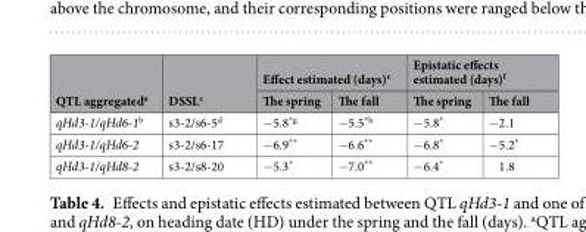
<table><thead><tr><td rowspan="2">QTL aggregated<sup>a</sup></td><td rowspan="2">DSSL<sup>c</sup></td><td colspan="2">Effect estimated (days)<sup>e</sup></td><td colspan="2">Epistatic effects estimated (days)<sup>f</sup></td></tr><tr><td>The spring</td><td>The fall</td><td>The spring</td><td>The fall</td></tr></thead><tbody><tr><td>qHd3-1/qHd6-1<sup>b</sup></td><td>s3-2/s6-5<sup>d</sup></td><td>−5.8<sup>*g</sup></td><td>−5.5<sup>*h</sup></td><td>−5.8*</td><td>−2.1</td></tr><tr><td>qHd3-1/qHd6-2</td><td>s3-2/s6-17</td><td>−6.9**</td><td>−6.6**</td><td>−6.8*</td><td>−5.2*</td></tr><tr><td>qHd3-1/qHd8-2</td><td>s3-2/s8-20</td><td>−5.3*</td><td>−7.0**</td><td>−6.4*</td><td>1.8</td></tr></tbody></table>